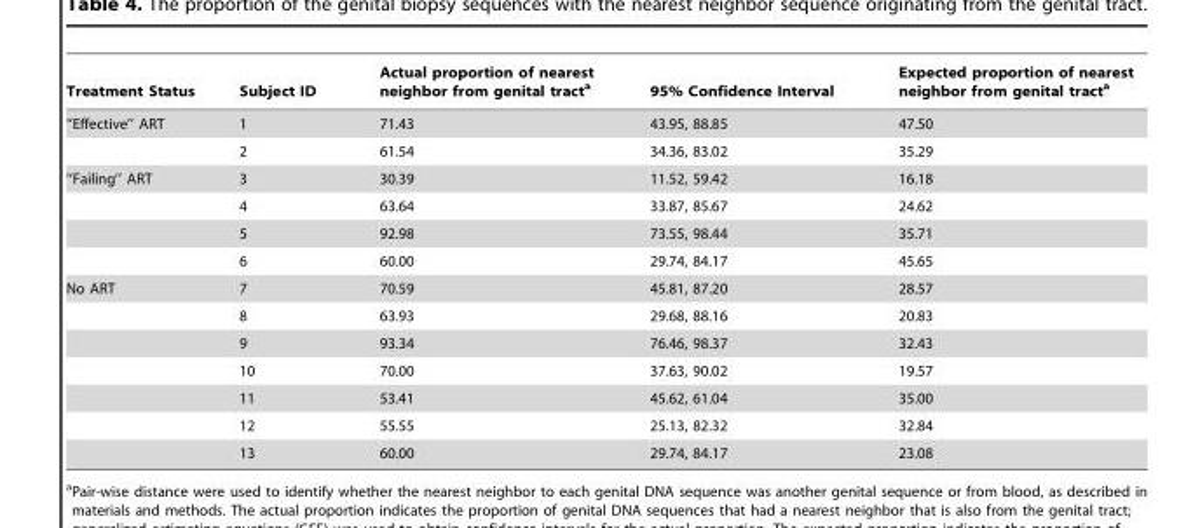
<table><thead><tr><td>Treatment Status</td><td>Subject ID</td><td>Actual proportion of nearest neighbor from genital tract<sup>a</sup></td><td>95% Confidence Interval</td><td>Expected proportion of nearest neighbor from genital tract<sup>a</sup></td></tr></thead><tbody><tr><td rowspan="2">‘‘Effective’’ ART</td><td>1</td><td>71.43</td><td>43.95, 88.85</td><td>47.50</td></tr><tr><td>2</td><td>61.54</td><td>34.36, 83.02</td><td>35.29</td></tr><tr><td rowspan="4">‘‘Failing’’ ART</td><td>3</td><td>30.39</td><td>11.52, 59.42</td><td>16.18</td></tr><tr><td>4</td><td>63.64</td><td>33.87, 85.67</td><td>24.62</td></tr><tr><td>5</td><td>92.98</td><td>73.55, 98.44</td><td>35.71</td></tr><tr><td>6</td><td>60.00</td><td>29.74, 84.17</td><td>45.65</td></tr><tr><td rowspan="7">No ART</td><td>7</td><td>70.59</td><td>45.81, 87.20</td><td>28.57</td></tr><tr><td>8</td><td>63.93</td><td>29.68, 88.16</td><td>20.83</td></tr><tr><td>9</td><td>93.34</td><td>76.46, 98.37</td><td>32.43</td></tr><tr><td>10</td><td>70.00</td><td>37.63, 90.02</td><td>19.57</td></tr><tr><td>11</td><td>53.41</td><td>45.62, 61.04</td><td>35.00</td></tr><tr><td>12</td><td>55.55</td><td>25.13, 82.32</td><td>32.84</td></tr><tr><td>13</td><td>60.00</td><td>29.74, 84.17</td><td>23.08</td></tr></tbody></table>